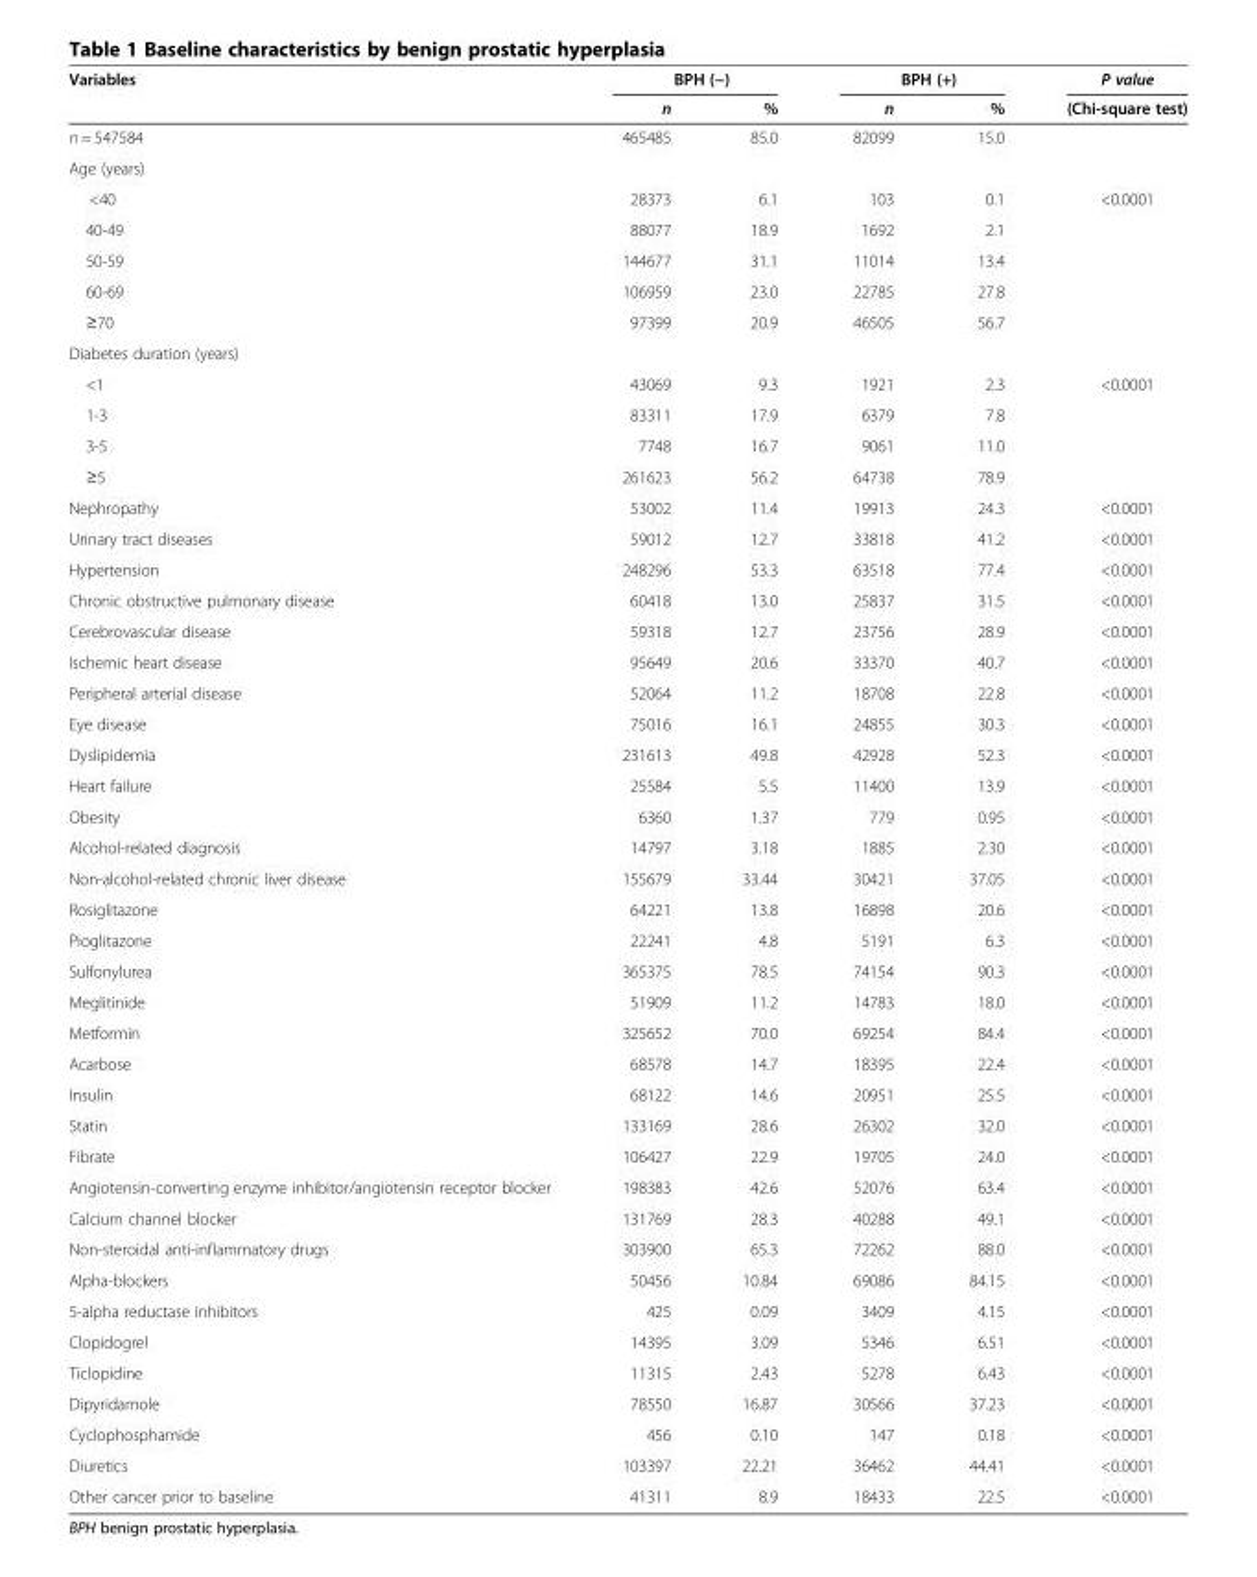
<table><thead><tr><td rowspan="2">Variables</td><td colspan="2">BPH (−)</td><td colspan="2">BPH (+)</td><td rowspan="2">P value (Chi-square test)</td></tr><tr><td>n</td><td>%</td><td>n</td><td>%</td></tr></thead><tbody><tr><td>n = 547584</td><td>465485</td><td>85.0</td><td>82099</td><td>15.0</td><td></td></tr><tr><td colspan="6">Age (years)</td></tr><tr><td>&lt;40</td><td>28373</td><td>6.1</td><td>103</td><td>0.1</td><td>&lt;0.0001</td></tr><tr><td>40-49</td><td>88077</td><td>18.9</td><td>1692</td><td>2.1</td><td></td></tr><tr><td>50-59</td><td>144677</td><td>31.1</td><td>11014</td><td>13.4</td><td></td></tr><tr><td>60-69</td><td>106959</td><td>23.0</td><td>22785</td><td>27.8</td><td></td></tr><tr><td>≥70</td><td>97399</td><td>20.9</td><td>46505</td><td>56.7</td><td></td></tr><tr><td colspan="6">Diabetes duration (years)</td></tr><tr><td>&lt;1</td><td>43069</td><td>9.3</td><td>1921</td><td>2.3</td><td>&lt;0.0001</td></tr><tr><td>1-3</td><td>83311</td><td>17.9</td><td>6379</td><td>7.8</td><td></td></tr><tr><td>3-5</td><td>7748</td><td>16.7</td><td>9061</td><td>11.0</td><td></td></tr><tr><td>≥5</td><td>261623</td><td>56.2</td><td>64738</td><td>78.9</td><td></td></tr><tr><td>Nephropathy</td><td>53002</td><td>11.4</td><td>19913</td><td>24.3</td><td>&lt;0.0001</td></tr><tr><td>Urinary tract diseases</td><td>59012</td><td>12.7</td><td>33818</td><td>41.2</td><td>&lt;0.0001</td></tr><tr><td>Hypertension</td><td>248296</td><td>53.3</td><td>63518</td><td>77.4</td><td>&lt;0.0001</td></tr><tr><td>Chronic obstructive pulmonary disease</td><td>60418</td><td>13.0</td><td>25837</td><td>31.5</td><td>&lt;0.0001</td></tr><tr><td>Cerebrovascular disease</td><td>59318</td><td>12.7</td><td>23756</td><td>28.9</td><td>&lt;0.0001</td></tr><tr><td>Ischemic heart disease</td><td>95649</td><td>20.6</td><td>33370</td><td>40.7</td><td>&lt;0.0001</td></tr><tr><td>Peripheral arterial disease</td><td>52064</td><td>11.2</td><td>18708</td><td>22.8</td><td>&lt;0.0001</td></tr><tr><td>Eye disease</td><td>75016</td><td>16.1</td><td>24855</td><td>30.3</td><td>&lt;0.0001</td></tr><tr><td>Dyslipidemia</td><td>231613</td><td>49.8</td><td>42928</td><td>52.3</td><td>&lt;0.0001</td></tr><tr><td>Heart failure</td><td>25584</td><td>5.5</td><td>11400</td><td>13.9</td><td>&lt;0.0001</td></tr><tr><td>Obesity</td><td>6360</td><td>1.37</td><td>779</td><td>0.95</td><td>&lt;0.0001</td></tr><tr><td>Alcohol-related diagnosis</td><td>14797</td><td>3.18</td><td>1885</td><td>2.30</td><td>&lt;0.0001</td></tr><tr><td>Non-alcohol-related chronic liver disease</td><td>155679</td><td>33.44</td><td>30421</td><td>37.05</td><td>&lt;0.0001</td></tr><tr><td>Rosiglitazone</td><td>64221</td><td>13.8</td><td>16898</td><td>20.6</td><td>&lt;0.0001</td></tr><tr><td>Pioglitazone</td><td>22241</td><td>4.8</td><td>5191</td><td>6.3</td><td>&lt;0.0001</td></tr><tr><td>Sulfonylurea</td><td>365375</td><td>78.5</td><td>74154</td><td>90.3</td><td>&lt;0.0001</td></tr><tr><td>Meglitinide</td><td>51909</td><td>11.2</td><td>14783</td><td>18.0</td><td>&lt;0.0001</td></tr><tr><td>Metformin</td><td>325652</td><td>70.0</td><td>69254</td><td>84.4</td><td>&lt;0.0001</td></tr><tr><td>Acarbose</td><td>68578</td><td>14.7</td><td>18395</td><td>22.4</td><td>&lt;0.0001</td></tr><tr><td>Insulin</td><td>68122</td><td>14.6</td><td>20951</td><td>25.5</td><td>&lt;0.0001</td></tr><tr><td>Statin</td><td>133169</td><td>28.6</td><td>26302</td><td>32.0</td><td>&lt;0.0001</td></tr><tr><td>Fibrate</td><td>106427</td><td>22.9</td><td>19705</td><td>24.0</td><td>&lt;0.0001</td></tr><tr><td>Angiotensin-converting enzyme inhibitor/angiotensin receptor blocker</td><td>198383</td><td>42.6</td><td>52076</td><td>63.4</td><td>&lt;0.0001</td></tr><tr><td>Calcium channel blocker</td><td>131769</td><td>28.3</td><td>40288</td><td>49.1</td><td>&lt;0.0001</td></tr><tr><td>Non-steroidal anti-inflammatory drugs</td><td>303900</td><td>65.3</td><td>72262</td><td>88.0</td><td>&lt;0.0001</td></tr><tr><td>Alpha-blockers</td><td>50456</td><td>10.84</td><td>69086</td><td>84.15</td><td>&lt;0.0001</td></tr><tr><td>5-alpha reductase inhibitors</td><td>425</td><td>0.09</td><td>3409</td><td>4.15</td><td>&lt;0.0001</td></tr><tr><td>Clopidogrel</td><td>14395</td><td>3.09</td><td>5346</td><td>6.51</td><td>&lt;0.0001</td></tr><tr><td>Ticlopidine</td><td>11315</td><td>2.43</td><td>5278</td><td>6.43</td><td>&lt;0.0001</td></tr><tr><td>Dipyridamole</td><td>78550</td><td>16.87</td><td>30566</td><td>37.23</td><td>&lt;0.0001</td></tr><tr><td>Cyclophosphamide</td><td>456</td><td>0.10</td><td>147</td><td>0.18</td><td>&lt;0.0001</td></tr><tr><td>Diuretics</td><td>103397</td><td>22.21</td><td>36462</td><td>44.41</td><td>&lt;0.0001</td></tr><tr><td>Other cancer prior to baseline</td><td>41311</td><td>8.9</td><td>18433</td><td>22.5</td><td>&lt;0.0001</td></tr></tbody></table>